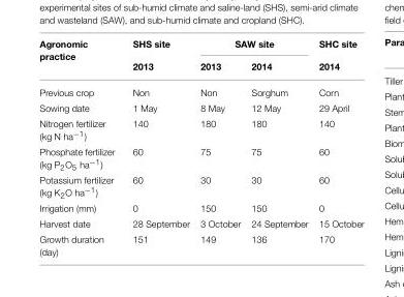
<table><thead><tr><td rowspan="2">Agronomic practice</td><td rowspan="2">SHS site 2013</td><td colspan="2">SAW site</td><td rowspan="2">SHC site 2014</td></tr><tr><td>2013</td><td>2014</td></tr></thead><tbody><tr><td>Previous crop</td><td>Non</td><td>Non</td><td>Sorghum</td><td>Corn</td></tr><tr><td>Sowing date</td><td>1 May</td><td>8 May</td><td>12 May</td><td>29 April</td></tr><tr><td>Nitrogen fertilizer (kg N ha<sup>−1</sup>)</td><td>140</td><td>180</td><td>180</td><td>140</td></tr><tr><td>Phosphate fertilizer (kg P<sub>2</sub>O<sub>5</sub> ha<sup>−1</sup>)</td><td>60</td><td>75</td><td>75</td><td>60</td></tr><tr><td>Potassium fertilizer (kg K<sub>2</sub>O ha<sup>−1</sup>)</td><td>60</td><td>30</td><td>30</td><td>60</td></tr><tr><td>Irrigation (mm)</td><td>0</td><td>150</td><td>150</td><td>0</td></tr><tr><td>Harvest date</td><td>28 September</td><td>3 October</td><td>24 September</td><td>15 October</td></tr><tr><td>Growth duration (day)</td><td>151</td><td>149</td><td>136</td><td>170</td></tr></tbody></table>